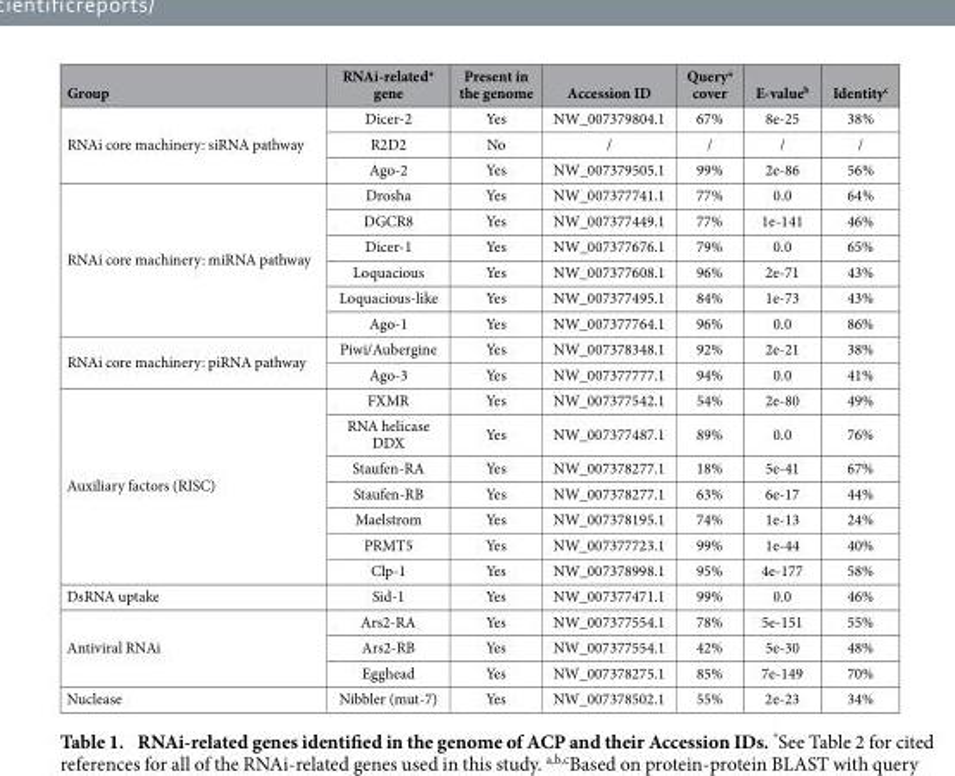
<table><thead><tr><td>Group</td><td>RNAi-related* gene</td><td>Present in the genome</td><td>Accession ID</td><td>Query<sup>a</sup> cover</td><td>E-value<sup>b</sup></td><td>Identity<sup>c</sup></td></tr></thead><tbody><tr><td rowspan="3">RNAi core machinery: siRNA pathway</td><td>Dicer-2</td><td>Yes</td><td>NW_007379804.1</td><td>67%</td><td>8e-25</td><td>38%</td></tr><tr><td>R2D2</td><td>No</td><td>/</td><td>/</td><td>/</td><td>/</td></tr><tr><td>Ago-2</td><td>Yes</td><td>NW_007379505.1</td><td>99%</td><td>2e-86</td><td>56%</td></tr><tr><td rowspan="6">RNAi core machinery: miRNA pathway</td><td>Drosha</td><td>Yes</td><td>NW_007377741.1</td><td>77%</td><td>0.0</td><td>64%</td></tr><tr><td>DGCR8</td><td>Yes</td><td>NW_007377449.1</td><td>77%</td><td>1e-141</td><td>46%</td></tr><tr><td>Dicer-1</td><td>Yes</td><td>NW_007377676.1</td><td>79%</td><td>0.0</td><td>65%</td></tr><tr><td>Loquacious</td><td>Yes</td><td>NW_007377608.1</td><td>96%</td><td>2e-71</td><td>43%</td></tr><tr><td>Loquacious-like</td><td>Yes</td><td>NW_007377495.1</td><td>84%</td><td>1e-73</td><td>43%</td></tr><tr><td>Ago-1</td><td>Yes</td><td>NW_007377764.1</td><td>96%</td><td>0.0</td><td>86%</td></tr><tr><td rowspan="2">RNAi core machinery: piRNA pathway</td><td>Piwi/Aubergine</td><td>Yes</td><td>NW_007378348.1</td><td>92%</td><td>2e-21</td><td>38%</td></tr><tr><td>Ago-3</td><td>Yes</td><td>NW_007377777.1</td><td>94%</td><td>0.0</td><td>41%</td></tr><tr><td rowspan="7">Auxiliary factors (RISC)</td><td>FXMR</td><td>Yes</td><td>NW_007377542.1</td><td>54%</td><td>2e-80</td><td>49%</td></tr><tr><td>RNA helicase DDX</td><td>Yes</td><td>NW_007377487.1</td><td>89%</td><td>0.0</td><td>76%</td></tr><tr><td>Staufen-RA</td><td>Yes</td><td>NW_007378277.1</td><td>18%</td><td>5e-41</td><td>67%</td></tr><tr><td>Staufen-RB</td><td>Yes</td><td>NW_007378277.1</td><td>63%</td><td>6e-17</td><td>44%</td></tr><tr><td>Maelstrom</td><td>Yes</td><td>NW_007378195.1</td><td>74%</td><td>1e-13</td><td>24%</td></tr><tr><td>PRMT5</td><td>Yes</td><td>NW_007377723.1</td><td>99%</td><td>1e-44</td><td>40%</td></tr><tr><td>Clp-1</td><td>Yes</td><td>NW_007378998.1</td><td>95%</td><td>4e-177</td><td>58%</td></tr><tr><td>DsRNA uptake</td><td>Sid-1</td><td>Yes</td><td>NW_007377471.1</td><td>99%</td><td>0.0</td><td>46%</td></tr><tr><td rowspan="3">Antiviral RNAi</td><td>Ars2-RA</td><td>Yes</td><td>NW_007377554.1</td><td>78%</td><td>5e-151</td><td>55%</td></tr><tr><td>Ars2-RB</td><td>Yes</td><td>NW_007377554.1</td><td>42%</td><td>5e-30</td><td>48%</td></tr><tr><td>Egghead</td><td>Yes</td><td>NW_007378275.1</td><td>85%</td><td>7e-149</td><td>70%</td></tr><tr><td>Nuclease</td><td>Nibbler (mut-7)</td><td>Yes</td><td>NW_007378502.1</td><td>55%</td><td>2e-23</td><td>34%</td></tr></tbody></table>